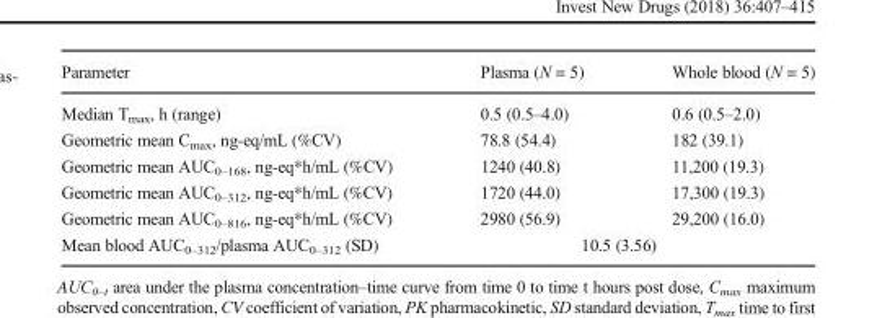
<table><thead><tr><td>Parameter</td><td>Plasma (N = 5)</td><td>Whole blood (N = 5)</td></tr></thead><tbody><tr><td>Median T<sub>max</sub>, h (range)</td><td>0.5 (0.5–4.0)</td><td>0.6 (0.5–2.0)</td></tr><tr><td>Geometric mean C<sub>max</sub>, ng-eq/mL (%CV)</td><td>78.8 (54.4)</td><td>182 (39.1)</td></tr><tr><td>Geometric mean AUC<sub>0–168</sub>, ng-eq*h/mL (%CV)</td><td>1240 (40.8)</td><td>11,200 (19.3)</td></tr><tr><td>Geometric mean AUC<sub>0–312</sub>, ng-eq*h/mL (%CV)</td><td>1720 (44.0)</td><td>17,300 (19.3)</td></tr><tr><td>Geometric mean AUC<sub>0–816</sub>, ng-eq*h/mL (%CV)</td><td>2980 (56.9)</td><td>29,200 (16.0)</td></tr><tr><td>Mean blood AUC<sub>0–312</sub>/plasma AUC<sub>0–312</sub> (SD)</td><td colspan="2">10.5 (3.56)</td></tr></tbody></table>